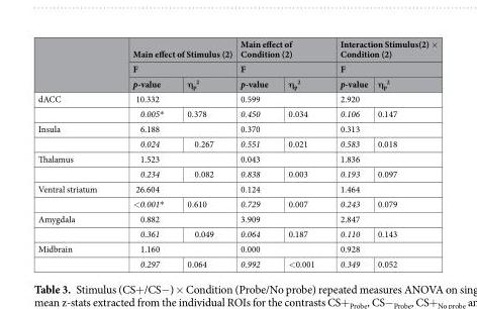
<table><thead><tr><td rowspan="3"></td><td rowspan="2" colspan="2">Main effect of Stimulus (2) F</td><td rowspan="2" colspan="2">Main effect of Condition (2) F</td><td rowspan="2" colspan="2">Interaction Stimulus(2) × Condition (2) F</td></tr><tr></tr><tr><td>p-value</td><td>η<sub>p</sub> <sup>2</sup></td><td>p-value</td><td>η<sub>p</sub> <sup>2</sup></td><td>p-value</td><td>η<sub>p</sub> <sup>2</sup></td></tr></thead><tbody><tr><td rowspan="2">dACC</td><td colspan="2">10.332</td><td colspan="2">0.599</td><td colspan="2">2.920</td></tr><tr><td>0.005*</td><td>0.378</td><td>0.450</td><td>0.034</td><td>0.106</td><td>0.147</td></tr><tr><td rowspan="2">Insula</td><td colspan="2">6.188</td><td colspan="2">0.370</td><td colspan="2">0.313</td></tr><tr><td>0.024</td><td>0.267</td><td>0.551</td><td>0.021</td><td>0.583</td><td>0.018</td></tr><tr><td rowspan="2">Thalamus</td><td colspan="2">1.523</td><td colspan="2">0.043</td><td colspan="2">1.836</td></tr><tr><td>0.234</td><td>0.082</td><td>0.838</td><td>0.003</td><td>0.193</td><td>0.097</td></tr><tr><td rowspan="2">Ventral striatum</td><td colspan="2">26.604</td><td colspan="2">0.124</td><td colspan="2">1.464</td></tr><tr><td>&lt;0.001*</td><td>0.610</td><td>0.729</td><td>0.007</td><td>0.243</td><td>0.079</td></tr><tr><td rowspan="2">Amygdala</td><td colspan="2">0.882</td><td colspan="2">3.909</td><td colspan="2">2.847</td></tr><tr><td>0.361</td><td>0.049</td><td>0.064</td><td>0.187</td><td>0.110</td><td>0.143</td></tr><tr><td rowspan="2">Midbrain</td><td colspan="2">1.160</td><td colspan="2">0.000</td><td colspan="2">0.928</td></tr><tr><td>0.297</td><td>0.064</td><td>0.992</td><td>&lt;0.001</td><td>0.349</td><td>0.052</td></tr></tbody></table>